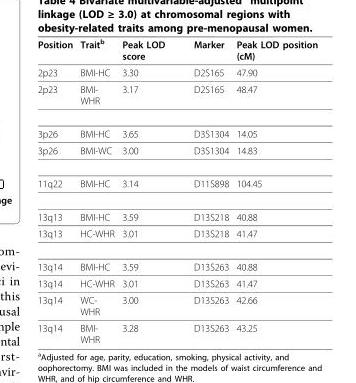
<table><thead><tr><td>Position</td><td>Traitb</td><td>Peak LOD score</td><td>Marker</td><td>Peak LOD position (cM)</td></tr></thead><tbody><tr><td>2p23</td><td>BMI-HC</td><td>3.30</td><td>D2S165</td><td>47.90</td></tr><tr><td>2p23</td><td>BMI- WHR</td><td>3.17</td><td>D2S165</td><td>48.47</td></tr><tr><td>3p26</td><td>BMI-HC</td><td>3.65</td><td>D3S1304</td><td>14.05</td></tr><tr><td>3p26</td><td>BMI-WC</td><td>3.00</td><td>D3S1304</td><td>14.83</td></tr><tr><td>11q22</td><td>BMI-HC</td><td>3.14</td><td>D11S898</td><td>104.45</td></tr><tr><td>13q13</td><td>BMI-HC</td><td>3.59</td><td>D13S218</td><td>40.88</td></tr><tr><td>13q13</td><td>HC-WHR</td><td>3.01</td><td>D13S218</td><td>41.47</td></tr><tr><td>13q14</td><td>BMI-HC</td><td>3.59</td><td>D13S263</td><td>40.88</td></tr><tr><td>13q14</td><td>HC-WHR</td><td>3.01</td><td>D13S263</td><td>41.47</td></tr><tr><td>13q14</td><td>WC- WHR</td><td>3.00</td><td>D13S263</td><td>42.66</td></tr><tr><td>13q14</td><td>BMI- WHR</td><td>3.28</td><td>D13S263</td><td>43.25</td></tr></tbody></table>